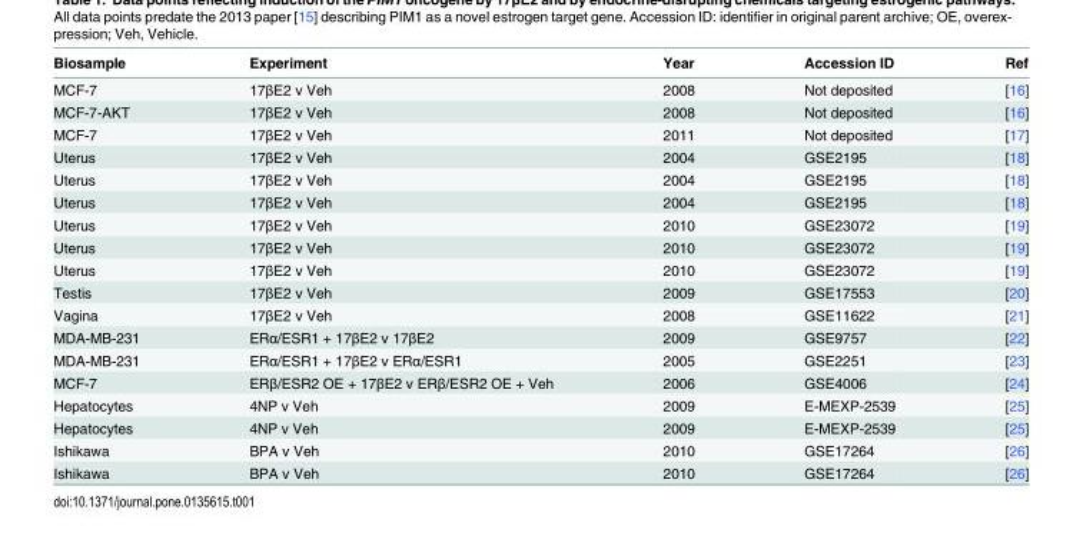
<table><thead><tr><td>Biosample</td><td>Experiment</td><td>Year</td><td>Accession ID</td><td>Ref</td></tr></thead><tbody><tr><td>MCF-7</td><td>17βE2 v Veh</td><td>2008</td><td>Not deposited</td><td>[16]</td></tr><tr><td>MCF-7-AKT</td><td>17βE2 v Veh</td><td>2008</td><td>Not deposited</td><td>[16]</td></tr><tr><td>MCF-7</td><td>17βE2 v Veh</td><td>2011</td><td>Not deposited</td><td>[17]</td></tr><tr><td>Uterus</td><td>17βE2 v Veh</td><td>2004</td><td>GSE2195</td><td>[18]</td></tr><tr><td>Uterus</td><td>17βE2 v Veh</td><td>2004</td><td>GSE2195</td><td>[18]</td></tr><tr><td>Uterus</td><td>17βE2 v Veh</td><td>2004</td><td>GSE2195</td><td>[18]</td></tr><tr><td>Uterus</td><td>17βE2 v Veh</td><td>2010</td><td>GSE23072</td><td>[19]</td></tr><tr><td>Uterus</td><td>17βE2 v Veh</td><td>2010</td><td>GSE23072</td><td>[19]</td></tr><tr><td>Uterus</td><td>17βE2 v Veh</td><td>2010</td><td>GSE23072</td><td>[19]</td></tr><tr><td>Testis</td><td>17βE2 v Veh</td><td>2009</td><td>GSE17553</td><td>[20]</td></tr><tr><td>Vagina</td><td>17βE2 v Veh</td><td>2008</td><td>GSE11622</td><td>[21]</td></tr><tr><td>MDA-MB-231</td><td>ERα/ESR1 + 17βE2 v 17βE2</td><td>2009</td><td>GSE9757</td><td>[22]</td></tr><tr><td>MDA-MB-231</td><td>ERα/ESR1 + 17βE2 v ERα/ESR1</td><td>2005</td><td>GSE2251</td><td>[23]</td></tr><tr><td>MCF-7</td><td>ERβ/ESR2 OE + 17βE2 v ERβ/ESR2 OE + Veh</td><td>2006</td><td>GSE4006</td><td>[24]</td></tr><tr><td>Hepatocytes</td><td>4NP v Veh</td><td>2009</td><td>E-MEXP-2539</td><td>[25]</td></tr><tr><td>Hepatocytes</td><td>4NP v Veh</td><td>2009</td><td>E-MEXP-2539</td><td>[25]</td></tr><tr><td>Ishikawa</td><td>BPA v Veh</td><td>2010</td><td>GSE17264</td><td>[26]</td></tr><tr><td>Ishikawa</td><td>BPA v Veh</td><td>2010</td><td>GSE17264</td><td>[26]</td></tr></tbody></table>